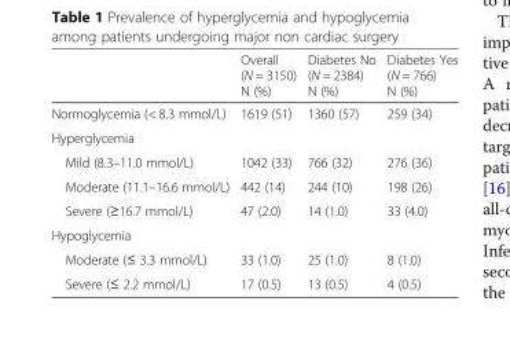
<table><thead><tr><td></td><td>Overall (N = 3150) N (%)</td><td>Diabetes No (N = 2384) N (%)</td><td>Diabetes Yes (N = 766) N (%)</td></tr></thead><tbody><tr><td>Normoglycemia (&lt; 8.3 mmol/L)</td><td>1619 (51)</td><td>1360 (57)</td><td>259 (34)</td></tr><tr><td colspan="4">Hyperglycemia</td></tr><tr><td>Mild (8.3–11.0 mmol/L)</td><td>1042 (33)</td><td>766 (32)</td><td>276 (36)</td></tr><tr><td>Moderate (11.1–16.6 mmol/L)</td><td>442 (14)</td><td>244 (10)</td><td>198 (26)</td></tr><tr><td>Severe (≥16.7 mmol/L)</td><td>47 (2.0)</td><td>14 (1.0)</td><td>33 (4.0)</td></tr><tr><td colspan="4">Hypoglycemia</td></tr><tr><td>Moderate (≤ 3.3 mmol/L)</td><td>33 (1.0)</td><td>25 (1.0)</td><td>8 (1.0)</td></tr><tr><td>Severe (≤ 2.2 mmol/L)</td><td>17 (0.5)</td><td>13 (0.5)</td><td>4 (0.5)</td></tr></tbody></table>